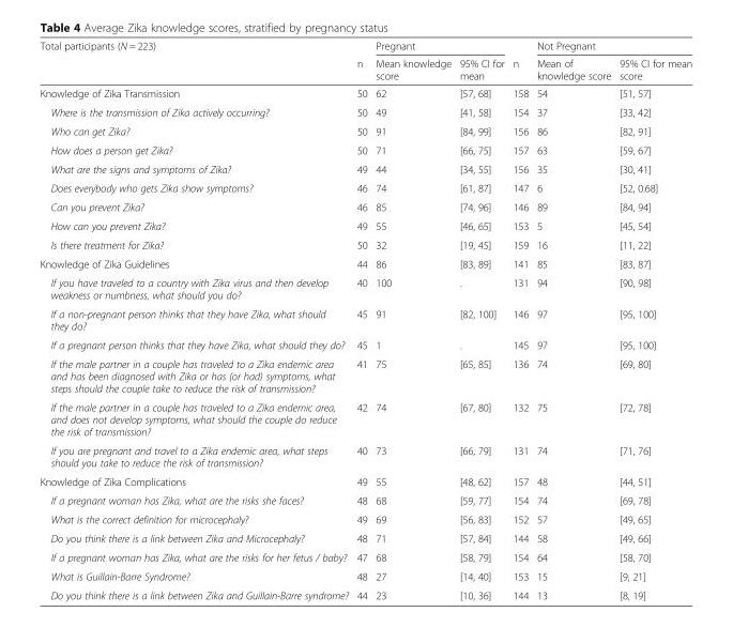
<table><thead><tr><td rowspan="2">Total participants (N = 223)</td><td rowspan="2">n</td><td colspan="2">Pregnant</td><td rowspan="2">n</td><td colspan="2">Not Pregnant</td></tr><tr><td>Mean knowledge score</td><td>95% CI for mean</td><td>Mean of knowledge score</td><td>95% CI for mean score</td></tr></thead><tbody><tr><td>Knowledge of Zika Transmission</td><td>50</td><td>62</td><td>[57, 68]</td><td>158</td><td>54</td><td>[51, 57]</td></tr><tr><td>Where is the transmission of Zika actively occurring?</td><td>50</td><td>49</td><td>[41, 58]</td><td>154</td><td>37</td><td>[33, 42]</td></tr><tr><td>Who can get Zika?</td><td>50</td><td>91</td><td>[84, 99]</td><td>156</td><td>86</td><td>[82, 91]</td></tr><tr><td>How does a person get Zika?</td><td>50</td><td>71</td><td>[66, 75]</td><td>157</td><td>63</td><td>[59, 67]</td></tr><tr><td>What are the signs and symptoms of Zika?</td><td>49</td><td>44</td><td>[34, 55]</td><td>156</td><td>35</td><td>[30, 41]</td></tr><tr><td>Does everybody who gets Zika show symptoms?</td><td>46</td><td>74</td><td>[61, 87]</td><td>147</td><td>6</td><td>[52, 0.68]</td></tr><tr><td>Can you prevent Zika?</td><td>46</td><td>85</td><td>[74, 96]</td><td>146</td><td>89</td><td>[84, 94]</td></tr><tr><td>How can you prevent Zika?</td><td>49</td><td>55</td><td>[46, 65]</td><td>153</td><td>5</td><td>[45, 54]</td></tr><tr><td>Is there treatment for Zika?</td><td>50</td><td>32</td><td>[19, 45]</td><td>159</td><td>16</td><td>[11, 22]</td></tr><tr><td>Knowledge of Zika Guidelines</td><td>44</td><td>86</td><td>[83, 89]</td><td>141</td><td>85</td><td>[83, 87]</td></tr><tr><td>If you have traveled to a country with Zika virus and then develop weakness or numbness, what should you do?</td><td>40</td><td>100</td><td>.</td><td>131</td><td>94</td><td>[90, 98]</td></tr><tr><td>If a non-pregnant person thinks that they have Zika, what should they do?</td><td>45</td><td>91</td><td>[82, 100]</td><td>146</td><td>97</td><td>[95, 100]</td></tr><tr><td>If a pregnant person thinks that they have Zika, what should they do?</td><td>45</td><td>1</td><td>.</td><td>145</td><td>97</td><td>[95, 100]</td></tr><tr><td>If the male partner in a couple has traveled to a Zika endemic area and has been diagnosed with Zika or has (or had) symptoms, what steps should the couple take to reduce the risk of transmission?</td><td>41</td><td>75</td><td>[65, 85]</td><td>136</td><td>74</td><td>[69, 80]</td></tr><tr><td>If the male partner in a couple has traveled to a Zika endemic area, and does not develop symptoms, what should the couple do reduce the risk of transmission?</td><td>42</td><td>74</td><td>[67, 80]</td><td>132</td><td>75</td><td>[72, 78]</td></tr><tr><td>If you are pregnant and travel to a Zika endemic area, what steps should you take to reduce the risk of transmission?</td><td>40</td><td>73</td><td>[66, 79]</td><td>131</td><td>74</td><td>[71, 76]</td></tr><tr><td>Knowledge of Zika Complications</td><td>49</td><td>55</td><td>[48, 62]</td><td>157</td><td>48</td><td>[44, 51]</td></tr><tr><td>If a pregnant woman has Zika, what are the risks she faces?</td><td>48</td><td>68</td><td>[59, 77]</td><td>154</td><td>74</td><td>[69, 78]</td></tr><tr><td>What is the correct definition for microcephaly?</td><td>49</td><td>69</td><td>[56, 83]</td><td>152</td><td>57</td><td>[49, 65]</td></tr><tr><td>Do you think there is a link between Zika and Microcephaly?</td><td>48</td><td>71</td><td>[57, 84]</td><td>144</td><td>58</td><td>[49, 66]</td></tr><tr><td>If a pregnant woman has Zika, what are the risks for her fetus / baby?</td><td>47</td><td>68</td><td>[58, 79]</td><td>154</td><td>64</td><td>[58, 70]</td></tr><tr><td>What is Guillain-Barre Syndrome?</td><td>48</td><td>27</td><td>[14, 40]</td><td>153</td><td>15</td><td>[9, 21]</td></tr><tr><td>Do you think there is a link between Zika and Guillain-Barre syndrome?</td><td>44</td><td>23</td><td>[10, 36]</td><td>144</td><td>13</td><td>[8, 19]</td></tr></tbody></table>